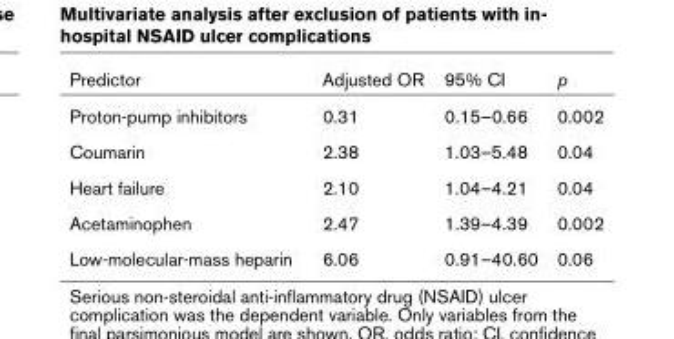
<table><thead><tr><td>Predictor</td><td>Adjusted OR</td><td>95% CI</td><td>p</td></tr></thead><tbody><tr><td>Proton-pump inhibitors</td><td>0.31</td><td>0.15–0.66</td><td>0.002</td></tr><tr><td>Coumarin</td><td>2.38</td><td>1.03–5.48</td><td>0.04</td></tr><tr><td>Heart failure</td><td>2.10</td><td>1.04–4.21</td><td>0.04</td></tr><tr><td>Acetaminophen</td><td>2.47</td><td>1.39–4.39</td><td>0.002</td></tr><tr><td>Low-molecular-mass heparin</td><td>6.06</td><td>0.91–40.60</td><td>0.06</td></tr></tbody></table>